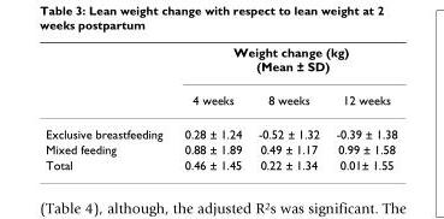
<table><thead><tr><td rowspan="2"></td><td colspan="3">Weight change (kg) (Mean ± SD)</td></tr><tr><td>4 weeks</td><td>8 weeks</td><td>12 weeks</td></tr></thead><tbody><tr><td>Exclusive breastfeeding</td><td>0.28 ± 1.24</td><td>-0.52 ± 1.32</td><td>-0.39 ± 1.38</td></tr><tr><td>Mixed feeding</td><td>0.88 ± 1.89</td><td>0.49 ± 1.17</td><td>0.99 ± 1.58</td></tr><tr><td>Total</td><td>0.46 ± 1.45</td><td>0.22 ± 1.34</td><td>0.01± 1.55</td></tr></tbody></table>